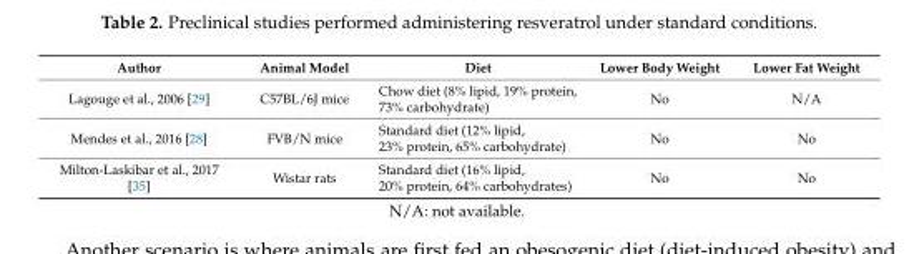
<table><thead><tr><td>Author</td><td>Animal Model</td><td>Diet</td><td>Lower Body Weight</td><td>Lower Fat Weight</td></tr></thead><tbody><tr><td>Lagouge et al., 2006 [29]</td><td>C57BL/6J mice</td><td>Chow diet (8% lipid, 19% protein, 73% carbohydrate)</td><td>No</td><td>N/A</td></tr><tr><td>Mendes et al., 2016 [28]</td><td>FVB/N mice</td><td>Standard diet (12% lipid, 23% protein, 65% carbohydrate)</td><td>No</td><td>No</td></tr><tr><td>Milton-Laskibar et al., 2017 [35]</td><td>Wistar rats</td><td>Standard diet (16% lipid, 20% protein, 64% carbohydrates)</td><td>No</td><td>No</td></tr></tbody></table>